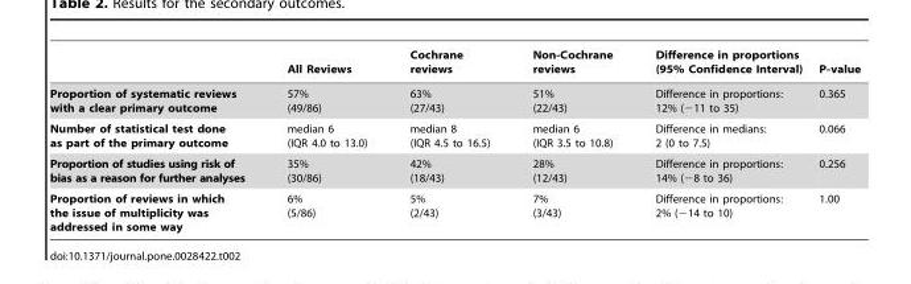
<table><thead><tr><td></td><td>All Reviews</td><td>Cochrane reviews</td><td>Non-Cochrane reviews</td><td>Difference in proportions (95% Confidence Interval)</td><td>P-value</td></tr></thead><tbody><tr><td>Proportion of systematic reviews with a clear primary outcome</td><td>57% (49/86)</td><td>63% (27/43)</td><td>51% (22/43)</td><td>Difference in proportions: 12% (−11 to 35)</td><td>0.365</td></tr><tr><td>Number of statistical test done as part of the primary outcome</td><td>median 6 (IQR 4.0 to 13.0)</td><td>median 8 (IQR 4.5 to 16.5)</td><td>median 6 (IQR 3.5 to 10.8)</td><td>Difference in medians: 2 (0 to 7.5)</td><td>0.066</td></tr><tr><td>Proportion of studies using risk of bias as a reason for further analyses</td><td>35% (30/86)</td><td>42% (18/43)</td><td>28% (12/43)</td><td>Difference in proportions: 14% (−8 to 36)</td><td>0.256</td></tr><tr><td>Proportion of reviews in which the issue of multiplicity was addressed in some way</td><td>6% (5/86)</td><td>5% (2/43)</td><td>7% (3/43)</td><td>Difference in proportions: 2% (−14 to 10)</td><td>1.00</td></tr></tbody></table>